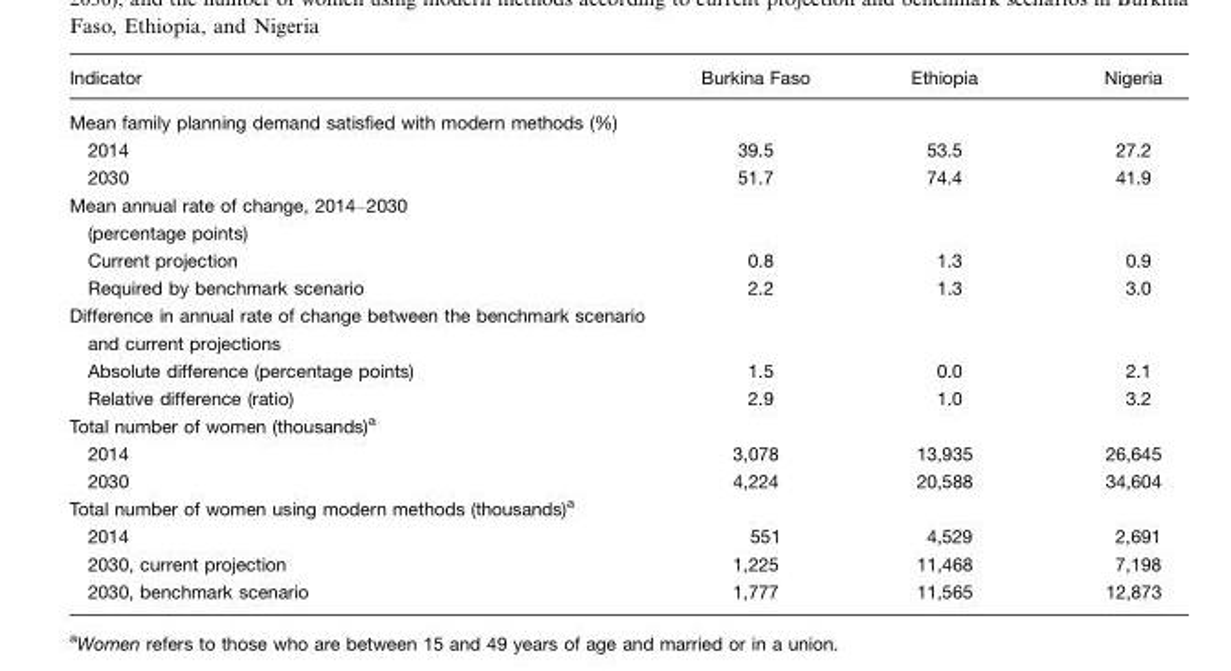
<table><thead><tr><td>Indicator</td><td>Burkina Faso</td><td>Ethiopia</td><td>Nigeria</td></tr></thead><tbody><tr><td colspan="4">Mean family planning demand satisfied with modern methods (%)</td></tr><tr><td>2014</td><td>39.5</td><td>53.5</td><td>27.2</td></tr><tr><td>2030</td><td>51.7</td><td>74.4</td><td>41.9</td></tr><tr><td colspan="4">Mean annual rate of change, 2014–2030 (percentage points)</td></tr><tr><td>Current projection</td><td>0.8</td><td>1.3</td><td>0.9</td></tr><tr><td>Required by benchmark scenario</td><td>2.2</td><td>1.3</td><td>3.0</td></tr><tr><td colspan="4">Difference in annual rate of change between the benchmark scenario and current projections</td></tr><tr><td>Absolute difference (percentage points)</td><td>1.5</td><td>0.0</td><td>2.1</td></tr><tr><td>Relative difference (ratio)</td><td>2.9</td><td>1.0</td><td>3.2</td></tr><tr><td colspan="4">Total number of women (thousands)<sup>a</sup></td></tr><tr><td>2014</td><td>3,078</td><td>13,935</td><td>26,645</td></tr><tr><td>2030</td><td>4,224</td><td>20,588</td><td>34,604</td></tr><tr><td colspan="4">Total number of women using modern methods (thousands)<sup>a</sup></td></tr><tr><td>2014</td><td>551</td><td>4,529</td><td>2,691</td></tr><tr><td>2030, current projection</td><td>1,225</td><td>11,468</td><td>7,198</td></tr><tr><td>2030, benchmark scenario</td><td>1,777</td><td>11,565</td><td>12,873</td></tr></tbody></table>